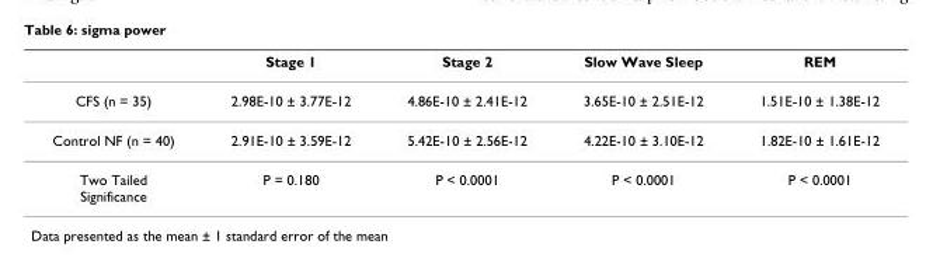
<table><thead><tr><td></td><td>Stage 1</td><td>Stage 2</td><td>Slow Wave Sleep</td><td>REM</td></tr></thead><tbody><tr><td>CFS (n = 35)</td><td>2.98E-10 ± 3.77E-12</td><td>4.86E-10 ± 2.41E-12</td><td>3.65E-10 ± 2.51E-12</td><td>1.51E-10 ± 1.38E-12</td></tr><tr><td>Control NF (n = 40)</td><td>2.91E-10 ± 3.59E-12</td><td>5.42E-10 ± 2.56E-12</td><td>4.22E-10 ± 3.10E-12</td><td>1.82E-10 ± 1.61E-12</td></tr><tr><td>Two Tailed Significance</td><td>P = 0.180</td><td>P &lt; 0.0001</td><td>P &lt; 0.0001</td><td>P &lt; 0.0001</td></tr></tbody></table>